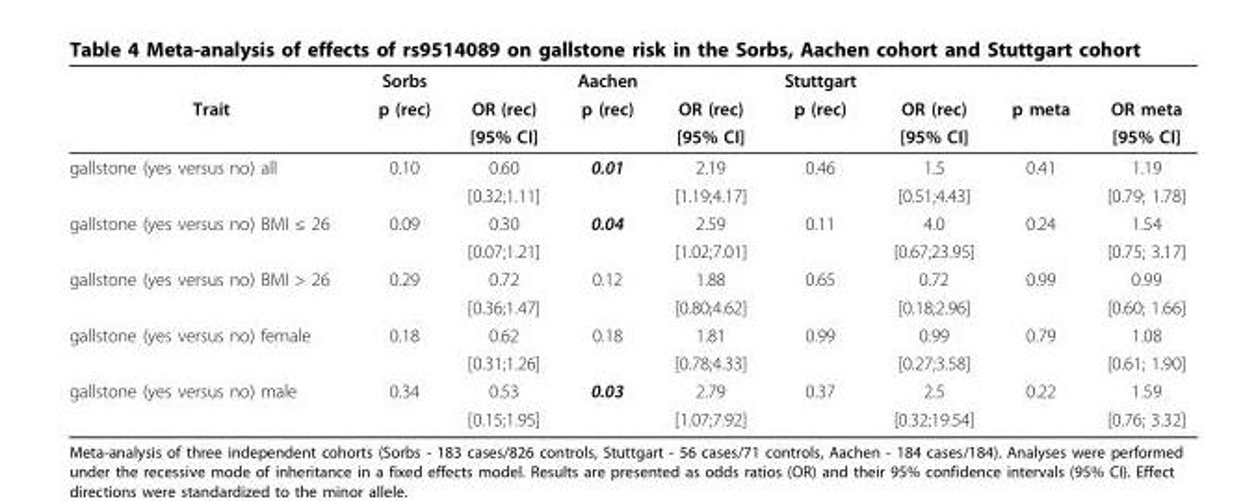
<table><thead><tr><td rowspan="3">Trait</td><td rowspan="3">Sorbs p (rec)</td><td rowspan="3">OR (rec) [95% CI]</td><td rowspan="3">Aachen p (rec)</td><td rowspan="3">OR (rec) [95% CI]</td><td rowspan="3">Stuttgart p (rec)</td><td rowspan="3">OR (rec) [95% CI]</td><td rowspan="3">p meta</td><td rowspan="3">OR meta [95% CI]</td></tr><tr></tr><tr></tr></thead><tbody><tr><td rowspan="2">gallstone (yes versus no) all</td><td>0.10</td><td>0.60</td><td>0.01</td><td>2.19</td><td>0.46</td><td>1.5</td><td>0.41</td><td>1.19</td></tr><tr><td></td><td>[0.32;1.11]</td><td></td><td>[1.19;4.17]</td><td></td><td>[0.51;4.43]</td><td></td><td>[0.79; 1.78]</td></tr><tr><td rowspan="2">gallstone (yes versus no) BMI ≤ 26</td><td>0.09</td><td>0.30</td><td>0.04</td><td>2.59</td><td>0.11</td><td>4.0</td><td>0.24</td><td>1.54</td></tr><tr><td></td><td>[0.07;1.21]</td><td></td><td>[1.02;7.01]</td><td></td><td>[0.67;23.95]</td><td></td><td>[0.75; 3.17]</td></tr><tr><td rowspan="2">gallstone (yes versus no) BMI &gt; 26</td><td>0.29</td><td>0.72</td><td>0.12</td><td>1.88</td><td>0.65</td><td>0.72</td><td>0.99</td><td>0.99</td></tr><tr><td></td><td>[0.36;1.47]</td><td></td><td>[0.80;4.62]</td><td></td><td>[0.18;2.96]</td><td></td><td>[0.60; 1.66]</td></tr><tr><td rowspan="2">gallstone (yes versus no) female</td><td>0.18</td><td>0.62</td><td>0.18</td><td>1.81</td><td>0.99</td><td>0.99</td><td>0.79</td><td>1.08</td></tr><tr><td></td><td>[0.31;1.26]</td><td></td><td>[0.78;4.33]</td><td></td><td>[0.27;3.58]</td><td></td><td>[0.61; 1.90]</td></tr><tr><td rowspan="2">gallstone (yes versus no) male</td><td>0.34</td><td>0.53</td><td>0.03</td><td>2.79</td><td>0.37</td><td>2.5</td><td>0.22</td><td>1.59</td></tr><tr><td></td><td>[0.15;1.95]</td><td></td><td>[1.07;7.92]</td><td></td><td>[0.32;19.54]</td><td></td><td>[0.76; 3.32]</td></tr></tbody></table>